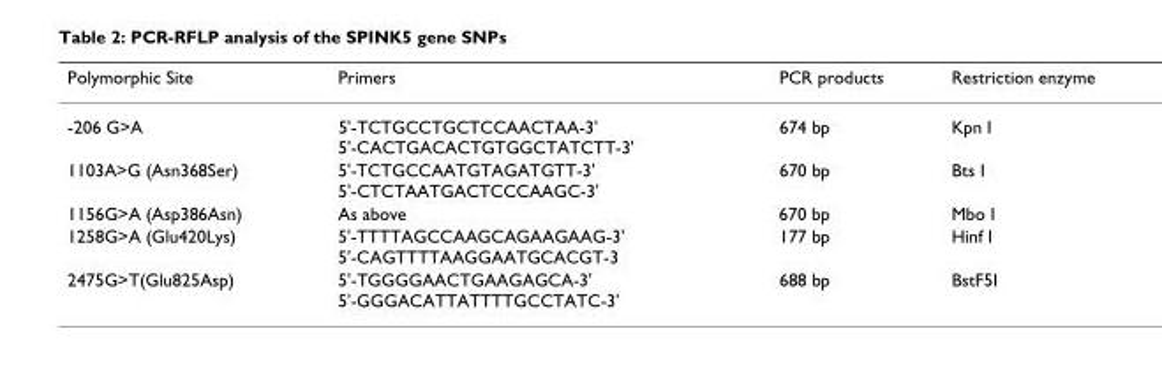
<table><thead><tr><td>Polymorphic Site</td><td>Primers</td><td>PCR products</td><td>Restriction enzyme</td></tr></thead><tbody><tr><td>-206 G&gt;A</td><td>5&#x27;-TCTGCCTGCTCCAACTAA-3&#x27; 5&#x27;-CACTGACACTGTGGCTATCTT-3&#x27;</td><td>674 bp</td><td>Kpn I</td></tr><tr><td>1103A&gt;G (Asn368Ser)</td><td>5&#x27;-TCTGCCAATGTAGATGTT-3&#x27; 5&#x27;-CTCTAATGACTCCCAAGC-3&#x27;</td><td>670 bp</td><td>Bts I</td></tr><tr><td>1156G&gt;A (Asp386Asn)</td><td>As above</td><td>670 bp</td><td>Mbo I</td></tr><tr><td>1258G&gt;A (Glu420Lys)</td><td>5&#x27;-TTTTAGCCAAGCAGAAGAAG-3&#x27; 5&#x27;-CAGTTTTAAGGAATGCACGT-3</td><td>177 bp</td><td>Hinf I</td></tr><tr><td>2475G&gt;T(Glu825Asp)</td><td>5&#x27;-TGGGGAACTGAAGAGCA-3&#x27; 5&#x27;-GGGACATTATTTTGCCTATC-3&#x27;</td><td>688 bp</td><td>BstF5I</td></tr></tbody></table>